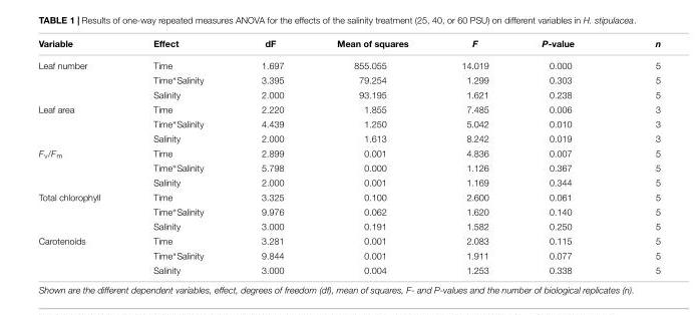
<table><thead><tr><td>Variable</td><td>Effect</td><td>dF</td><td>Mean of squares</td><td>F</td><td>P-value</td><td>n</td></tr></thead><tbody><tr><td rowspan="3">Leaf number</td><td>Time</td><td>1.697</td><td>855.055</td><td>14.019</td><td>0.000</td><td>5</td></tr><tr><td>Time∗Salinity</td><td>3.395</td><td>79.254</td><td>1.299</td><td>0.303</td><td>5</td></tr><tr><td>Salinity</td><td>2.000</td><td>93.195</td><td>1.621</td><td>0.238</td><td>5</td></tr><tr><td rowspan="3">Leaf area</td><td>Time</td><td>2.220</td><td>1.855</td><td>7.485</td><td>0.006</td><td>3</td></tr><tr><td>Time∗Salinity</td><td>4.439</td><td>1.250</td><td>5.042</td><td>0.010</td><td>3</td></tr><tr><td>Salinity</td><td>2.000</td><td>1.613</td><td>8.242</td><td>0.019</td><td>3</td></tr><tr><td rowspan="3">F<sub>v</sub>/F<sub>m</sub></td><td>Time</td><td>2.899</td><td>0.001</td><td>4.836</td><td>0.007</td><td>5</td></tr><tr><td>Time∗Salinity</td><td>5.798</td><td>0.000</td><td>1.126</td><td>0.367</td><td>5</td></tr><tr><td>Salinity</td><td>2.000</td><td>0.001</td><td>1.169</td><td>0.344</td><td>5</td></tr><tr><td rowspan="3">Total chlorophyll</td><td>Time</td><td>3.325</td><td>0.100</td><td>2.600</td><td>0.061</td><td>5</td></tr><tr><td>Time∗Salinity</td><td>9.976</td><td>0.062</td><td>1.620</td><td>0.140</td><td>5</td></tr><tr><td>Salinity</td><td>3.000</td><td>0.191</td><td>1.582</td><td>0.250</td><td>5</td></tr><tr><td rowspan="3">Carotenoids</td><td>Time</td><td>3.281</td><td>0.001</td><td>2.083</td><td>0.115</td><td>5</td></tr><tr><td>Time∗Salinity</td><td>9.844</td><td>0.001</td><td>1.911</td><td>0.077</td><td>5</td></tr><tr><td>Salinity</td><td>3.000</td><td>0.004</td><td>1.253</td><td>0.338</td><td>5</td></tr></tbody></table>